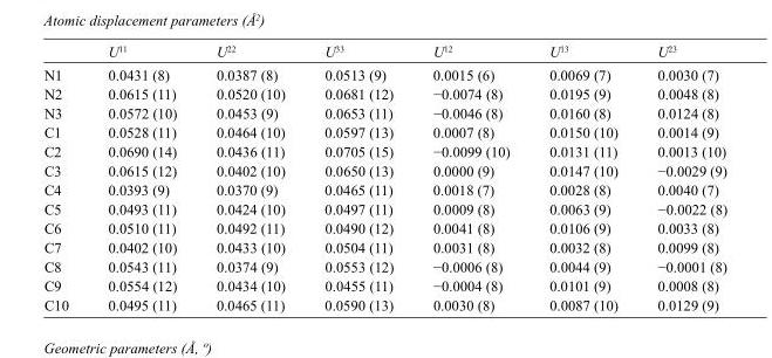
<table><thead><tr><td></td><td>U<sup>11</sup></td><td>U<sup>22</sup></td><td>U<sup>33</sup></td><td>U<sup>12</sup></td><td>U<sup>13</sup></td><td>U<sup>23</sup></td></tr></thead><tbody><tr><td>N1</td><td>0.0431 (8)</td><td>0.0387 (8)</td><td>0.0513 (9)</td><td>0.0015 (6)</td><td>0.0069 (7)</td><td>0.0030 (7)</td></tr><tr><td>N2</td><td>0.0615 (11)</td><td>0.0520 (10)</td><td>0.0681 (12)</td><td>−0.0074 (8)</td><td>0.0195 (9)</td><td>0.0048 (8)</td></tr><tr><td>N3</td><td>0.0572 (10)</td><td>0.0453 (9)</td><td>0.0653 (11)</td><td>−0.0046 (8)</td><td>0.0160 (8)</td><td>0.0124 (8)</td></tr><tr><td>C1</td><td>0.0528 (11)</td><td>0.0464 (10)</td><td>0.0597 (13)</td><td>0.0007 (8)</td><td>0.0150 (10)</td><td>0.0014 (9)</td></tr><tr><td>C2</td><td>0.0690 (14)</td><td>0.0436 (11)</td><td>0.0705 (15)</td><td>−0.0099 (10)</td><td>0.0131 (11)</td><td>0.0013 (10)</td></tr><tr><td>C3</td><td>0.0615 (12)</td><td>0.0402 (10)</td><td>0.0650 (13)</td><td>0.0000 (9)</td><td>0.0147 (10)</td><td>−0.0029 (9)</td></tr><tr><td>C4</td><td>0.0393 (9)</td><td>0.0370 (9)</td><td>0.0465 (11)</td><td>0.0018 (7)</td><td>0.0028 (8)</td><td>0.0040 (7)</td></tr><tr><td>C5</td><td>0.0493 (11)</td><td>0.0424 (10)</td><td>0.0497 (11)</td><td>0.0009 (8)</td><td>0.0063 (9)</td><td>−0.0022 (8)</td></tr><tr><td>C6</td><td>0.0510 (11)</td><td>0.0492 (11)</td><td>0.0490 (12)</td><td>0.0041 (8)</td><td>0.0106 (9)</td><td>0.0033 (8)</td></tr><tr><td>C7</td><td>0.0402 (10)</td><td>0.0433 (10)</td><td>0.0504 (11)</td><td>0.0031 (8)</td><td>0.0032 (8)</td><td>0.0099 (8)</td></tr><tr><td>C8</td><td>0.0543 (11)</td><td>0.0374 (9)</td><td>0.0553 (12)</td><td>−0.0006 (8)</td><td>0.0044 (9)</td><td>−0.0001 (8)</td></tr><tr><td>C9</td><td>0.0554 (12)</td><td>0.0434 (10)</td><td>0.0455 (11)</td><td>−0.0004 (8)</td><td>0.0101 (9)</td><td>0.0008 (8)</td></tr><tr><td>C10</td><td>0.0495 (11)</td><td>0.0465 (11)</td><td>0.0590 (13)</td><td>0.0030 (8)</td><td>0.0087 (10)</td><td>0.0129 (9)</td></tr></tbody></table>